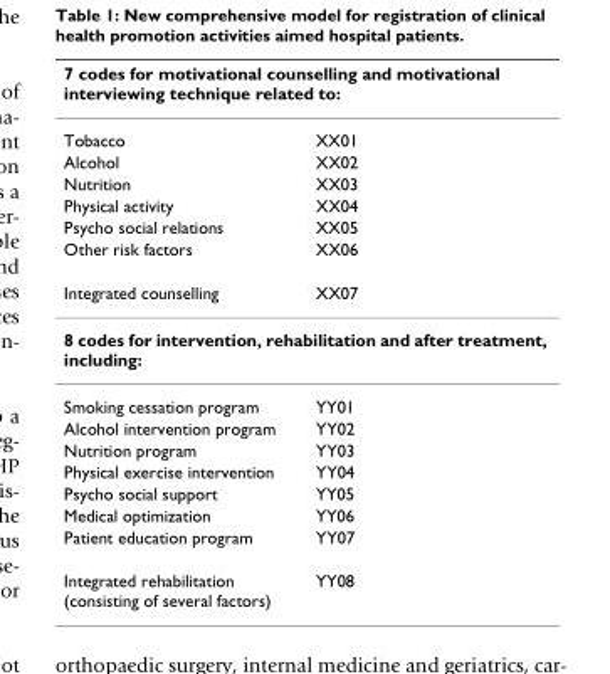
<table><thead><tr><td colspan="2">7 codes for motivational counselling and motivational interviewing technique related to:</td></tr><tr><td>Tobacco</td><td>XX01</td></tr></thead><tbody><tr><td>Alcohol</td><td>XX02</td></tr><tr><td>Nutrition</td><td>XX03</td></tr><tr><td>Physical activity</td><td>XX04</td></tr><tr><td>Psycho social relations</td><td>XX05</td></tr><tr><td>Other risk factors</td><td>XX06</td></tr><tr><td>Integrated counselling</td><td>XX07</td></tr><tr><td colspan="2">8 codes for intervention, rehabilitation and after treatment, including:</td></tr><tr><td>Smoking cessation program</td><td>YY01</td></tr><tr><td>Alcohol intervention program</td><td>YY02</td></tr><tr><td>Nutrition program</td><td>YY03</td></tr><tr><td>Physical exercise intervention</td><td>YY04</td></tr><tr><td>Psycho social support</td><td>YY05</td></tr><tr><td>Medical optimization</td><td>YY06</td></tr><tr><td>Patient education program</td><td>YY07</td></tr><tr><td>Integrated rehabilitation (consisting of several factors)</td><td>YY08</td></tr></tbody></table>